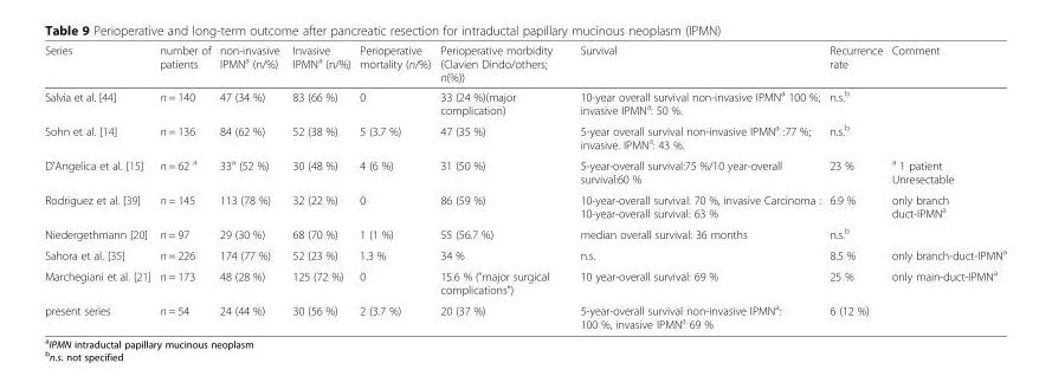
<table><thead><tr><td>Series</td><td>number of patients</td><td>non-invasive IPMN<sup>a</sup> (n/%)</td><td>Invasive IPMN<sup>a</sup> (n/%)</td><td>Perioperative mortality (n/%)</td><td>Perioperative morbidity (Clavien Dindo/others; n(%))</td><td>Survival</td><td>Recurrence rate</td><td>Comment</td></tr></thead><tbody><tr><td>Salvia et al. [44]</td><td>n = 140</td><td>47 (34 %)</td><td>83 (66 %)</td><td>0</td><td>33 (24 %)(major complication)</td><td>10-year overall survival non-invasive IPMN<sup>a</sup> 100 %; invasive IPMN<sup>a</sup>: 50 %.</td><td>n.s.<sup>b</sup></td><td></td></tr><tr><td>Sohn et al. [14]</td><td>n = 136</td><td>84 (62 %)</td><td>52 (38 %)</td><td>5 (3.7 %)</td><td>47 (35 %)</td><td>5-year overall survival non-invasive IPMN<sup>a</sup> :77 %; invasive. IPMN<sup>a</sup>: 43 %.</td><td>n.s.<sup>b</sup></td><td></td></tr><tr><td>D&#x27;Angelica et al. [15]</td><td>n = 62 <sup>a</sup></td><td>33<sup>a</sup> (52 %)</td><td>30 (48 %)</td><td>4 (6 %)</td><td>31 (50 %)</td><td>5-year-overall survival:75 %/10 year-overall survival:60 %</td><td>23 %</td><td><sup>a</sup> 1 patient Unresectable</td></tr><tr><td>Rodriguez et al. [39]</td><td>n = 145</td><td>113 (78 %)</td><td>32 (22 %)</td><td>0</td><td>86 (59 %)</td><td>10-year-overall survival: 70 %, invasive Carcinoma : 10-year-overall survival: 63 %</td><td>6.9 %</td><td>only branch duct-IPMN<sup>a</sup></td></tr><tr><td>Niedergethmann [20]</td><td>n = 97</td><td>29 (30 %)</td><td>68 (70 %)</td><td>1 (1 %)</td><td>55 (56.7 %)</td><td>median overall survival: 36 months</td><td>n.s.<sup>b</sup></td><td></td></tr><tr><td>Sahora et al. [35]</td><td>n = 226</td><td>174 (77 %)</td><td>52 (23 %)</td><td>1.3 %</td><td>34 %</td><td>n.s.</td><td>8.5 %</td><td>only branch-duct-IPMN<sup>a</sup></td></tr><tr><td>Marchegiani et al. [21]</td><td>n = 173</td><td>48 (28 %)</td><td>125 (72 %)</td><td>0</td><td>15.6 % (&quot;major surgical complications&quot;)</td><td>10 year-overall survival: 69 %</td><td>25 %</td><td>only main-duct-IPMN<sup>a</sup></td></tr><tr><td>present series</td><td>n = 54</td><td>24 (44 %)</td><td>30 (56 %)</td><td>2 (3.7 %)</td><td>20 (37 %)</td><td>5-year-overall survival non-invasive IPMN<sup>a</sup>: 100 %, invasive IPMN<sup>a</sup> 69 %</td><td>6 (12 %)</td><td></td></tr></tbody></table>